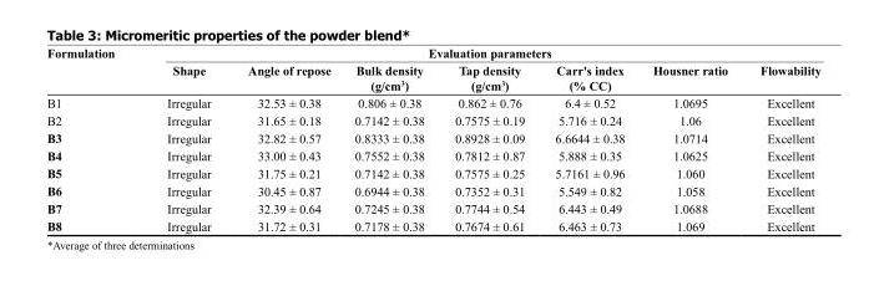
<table><thead><tr><td rowspan="2">Formulation</td><td colspan="7">Evaluation parameters</td></tr><tr><td>Shape</td><td>Angle of repose</td><td>Bulk density (g/cm<sup>3</sup>)</td><td>Tap density (g/cm<sup>3</sup>)</td><td>Carr&#x27;s index (% CC)</td><td>Housner ratio</td><td>Flowability</td></tr></thead><tbody><tr><td>B1</td><td>Irregular</td><td>32.53 ± 0.38</td><td>0.806 ± 0.38</td><td>0.862 ± 0.76</td><td>6.4 ± 0.52</td><td>1.0695</td><td>Excellent</td></tr><tr><td>B2</td><td>Irregular</td><td>31.65 ± 0.18</td><td>0.7142 ± 0.38</td><td>0.7575 ± 0.19</td><td>5.716 ± 0.24</td><td>1.06</td><td>Excellent</td></tr><tr><td>B3</td><td>Irregular</td><td>32.82 ± 0.57</td><td>0.8333 ± 0.38</td><td>0.8928 ± 0.09</td><td>6.6644 ± 0.38</td><td>1.0714</td><td>Excellent</td></tr><tr><td>B4</td><td>Irregular</td><td>33.00 ± 0.43</td><td>0.7552 ± 0.38</td><td>0.7812 ± 0.87</td><td>5.888 ± 0.35</td><td>1.0625</td><td>Excellent</td></tr><tr><td>B5</td><td>Irregular</td><td>31.75 ± 0.21</td><td>0.7142 ± 0.38</td><td>0.7575 ± 0.25</td><td>5.7161 ± 0.96</td><td>1.060</td><td>Excellent</td></tr><tr><td>B6</td><td>Irregular</td><td>30.45 ± 0.87</td><td>0.6944 ± 0.38</td><td>0.7352 ± 0.31</td><td>5.549 ± 0.82</td><td>1.058</td><td>Excellent</td></tr><tr><td>B7</td><td>Irregular</td><td>32.39 ± 0.64</td><td>0.7245 ± 0.38</td><td>0.7744 ± 0.54</td><td>6.443 ± 0.49</td><td>1.0688</td><td>Excellent</td></tr><tr><td>B8</td><td>Irregular</td><td>31.72 ± 0.31</td><td>0.7178 ± 0.38</td><td>0.7674 ± 0.61</td><td>6.463 ± 0.73</td><td>1.069</td><td>Excellent</td></tr></tbody></table>